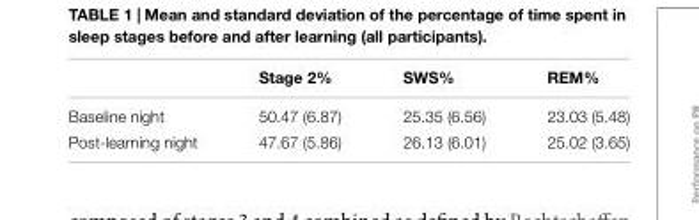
<table><thead><tr><td></td><td>Stage 2%</td><td>SWS%</td><td>REM%</td></tr></thead><tbody><tr><td>Baseline night</td><td>50.47 (6.87)</td><td>25.35 (6.56)</td><td>23.03 (5.48)</td></tr><tr><td>Post-learning night</td><td>47.67 (5.86)</td><td>26.13 (6.01)</td><td>25.02 (3.65)</td></tr></tbody></table>